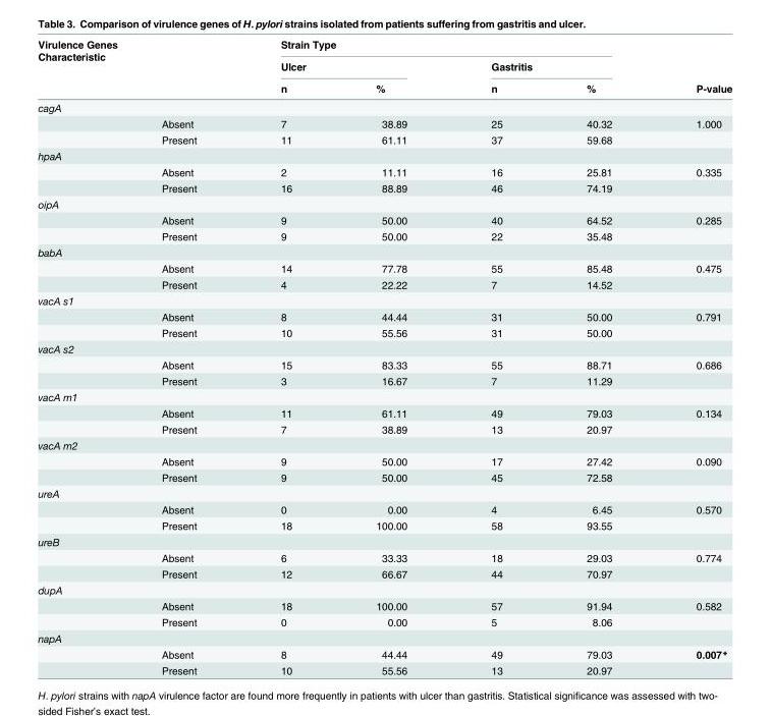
<table><thead><tr><td rowspan="3" colspan="2">Virulence Genes Characteristic</td><td colspan="4">Strain Type</td><td rowspan="4">P-value</td></tr><tr><td colspan="2">Ulcer</td><td colspan="2">Gastritis</td></tr><tr><td rowspan="2">n</td><td rowspan="2">%</td><td rowspan="2">n</td><td rowspan="2">%</td></tr><tr><td>cagA</td><td></td></tr></thead><tbody><tr><td></td><td>Absent</td><td>7</td><td>38.89</td><td>25</td><td>40.32</td><td>1.000</td></tr><tr><td></td><td>Present</td><td>11</td><td>61.11</td><td>37</td><td>59.68</td><td></td></tr><tr><td colspan="7">hpaA</td></tr><tr><td></td><td>Absent</td><td>2</td><td>11.11</td><td>16</td><td>25.81</td><td>0.335</td></tr><tr><td></td><td>Present</td><td>16</td><td>88.89</td><td>46</td><td>74.19</td><td></td></tr><tr><td colspan="7">oipA</td></tr><tr><td></td><td>Absent</td><td>9</td><td>50.00</td><td>40</td><td>64.52</td><td>0.285</td></tr><tr><td></td><td>Present</td><td>9</td><td>50.00</td><td>22</td><td>35.48</td><td></td></tr><tr><td colspan="7">babA</td></tr><tr><td></td><td>Absent</td><td>14</td><td>77.78</td><td>55</td><td>85.48</td><td>0.475</td></tr><tr><td></td><td>Present</td><td>4</td><td>22.22</td><td>7</td><td>14.52</td><td></td></tr><tr><td colspan="7">vacA s1</td></tr><tr><td></td><td>Absent</td><td>8</td><td>44.44</td><td>31</td><td>50.00</td><td>0.791</td></tr><tr><td></td><td>Present</td><td>10</td><td>55.56</td><td>31</td><td>50.00</td><td></td></tr><tr><td colspan="7">vacA s2</td></tr><tr><td></td><td>Absent</td><td>15</td><td>83.33</td><td>55</td><td>88.71</td><td>0.686</td></tr><tr><td></td><td>Present</td><td>3</td><td>16.67</td><td>7</td><td>11.29</td><td></td></tr><tr><td colspan="7">vacA m1</td></tr><tr><td></td><td>Absent</td><td>11</td><td>61.11</td><td>49</td><td>79.03</td><td>0.134</td></tr><tr><td></td><td>Present</td><td>7</td><td>38.89</td><td>13</td><td>20.97</td><td></td></tr><tr><td colspan="7">vacA m2</td></tr><tr><td></td><td>Absent</td><td>9</td><td>50.00</td><td>17</td><td>27.42</td><td>0.090</td></tr><tr><td></td><td>Present</td><td>9</td><td>50.00</td><td>45</td><td>72.58</td><td></td></tr><tr><td colspan="7">ureA</td></tr><tr><td></td><td>Absent</td><td>0</td><td>0.00</td><td>4</td><td>6.45</td><td>0.570</td></tr><tr><td></td><td>Present</td><td>18</td><td>100.00</td><td>58</td><td>93.55</td><td></td></tr><tr><td colspan="7">ureB</td></tr><tr><td></td><td>Absent</td><td>6</td><td>33.33</td><td>18</td><td>29.03</td><td>0.774</td></tr><tr><td></td><td>Present</td><td>12</td><td>66.67</td><td>44</td><td>70.97</td><td></td></tr><tr><td colspan="7">dupA</td></tr><tr><td></td><td>Absent</td><td>18</td><td>100.00</td><td>57</td><td>91.94</td><td>0.582</td></tr><tr><td></td><td>Present</td><td>0</td><td>0.00</td><td>5</td><td>8.06</td><td></td></tr><tr><td colspan="7">napA</td></tr><tr><td></td><td>Absent</td><td>8</td><td>44.44</td><td>49</td><td>79.03</td><td>0.007*</td></tr><tr><td></td><td>Present</td><td>10</td><td>55.56</td><td>13</td><td>20.97</td><td></td></tr></tbody></table>